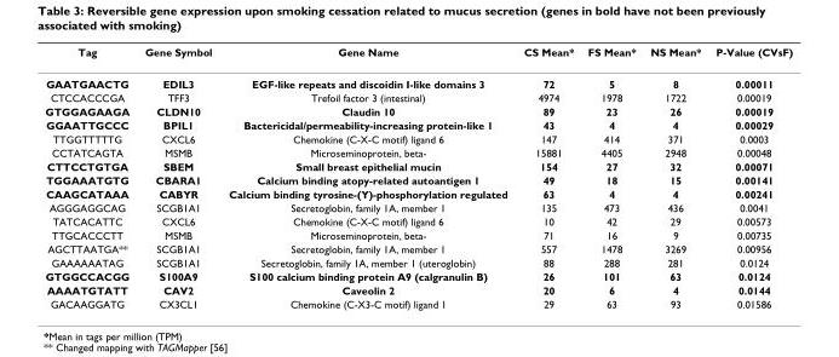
<table><thead><tr><td>Tag</td><td>Gene Symbol</td><td>Gene Name</td><td>CS Mean*</td><td>FS Mean*</td><td>NS Mean*</td><td>P-Value (CVsF)</td></tr></thead><tbody><tr><td>GAATGAACTG</td><td>EDIL3</td><td>EGF-like repeats and discoidin I-like domains 3</td><td>72</td><td>5</td><td>8</td><td>0.00011</td></tr><tr><td>CTCCACCCGA</td><td>TFF3</td><td>Trefoil factor 3 (intestinal)</td><td>4974</td><td>1978</td><td>1722</td><td>0.00019</td></tr><tr><td>GTGGAGAAGA</td><td>CLDN10</td><td>Claudin 10</td><td>89</td><td>23</td><td>26</td><td>0.00019</td></tr><tr><td>GGAATTGCCC</td><td>BPIL1</td><td>Bactericidal/permeability-increasing protein-like 1</td><td>43</td><td>4</td><td>4</td><td>0.00029</td></tr><tr><td>TTGGTTTTTG</td><td>CXCL6</td><td>Chemokine (C-X-C motif) ligand 6</td><td>147</td><td>414</td><td>371</td><td>0.0003</td></tr><tr><td>CCTATCAGTA</td><td>MSMB</td><td>Microseminoprotein, beta-</td><td>15881</td><td>4405</td><td>2948</td><td>0.00048</td></tr><tr><td>CTTCCTGTGA</td><td>SBEM</td><td>Small breast epithelial mucin</td><td>154</td><td>27</td><td>32</td><td>0.00071</td></tr><tr><td>TGGAAATGTG</td><td>CBARA1</td><td>Calcium binding atopy-related autoantigen 1</td><td>49</td><td>18</td><td>15</td><td>0.00141</td></tr><tr><td>CAAGCATAAA</td><td>CABYR</td><td>Calcium binding tyrosine-(Y)-phosphorylation regulated</td><td>63</td><td>4</td><td>4</td><td>0.00241</td></tr><tr><td>AGGGAGGCAG</td><td>SCGB1A1</td><td>Secretoglobin, family 1A, member 1</td><td>135</td><td>473</td><td>436</td><td>0.0041</td></tr><tr><td>TATCACATTC</td><td>CXCL6</td><td>Chemokine (C-X-C motif) ligand 6</td><td>10</td><td>42</td><td>29</td><td>0.00573</td></tr><tr><td>TTGCACCCTT</td><td>MSMB</td><td>Microseminoprotein, beta-</td><td>71</td><td>16</td><td>9</td><td>0.00735</td></tr><tr><td>AGCTTAATGA**</td><td>SCGB1A1</td><td>Secretoglobin, family 1A, member 1</td><td>557</td><td>1478</td><td>3269</td><td>0.00956</td></tr><tr><td>GAAAAAATAG</td><td>SCGB1A1</td><td>Secretoglobin, family 1A, member 1 (uteroglobin)</td><td>88</td><td>288</td><td>281</td><td>0.0124</td></tr><tr><td>GTGGCCACGG</td><td>S100A9</td><td>S100 calcium binding protein A9 (calgranulin B)</td><td>26</td><td>101</td><td>63</td><td>0.0124</td></tr><tr><td>AAAATGTATT</td><td>CAV2</td><td>Caveolin 2</td><td>20</td><td>6</td><td>4</td><td>0.0144</td></tr><tr><td>GACAAGGATG</td><td>CX3CL1</td><td>Chemokine (C-X3-C motif) ligand 1</td><td>29</td><td>63</td><td>93</td><td>0.01586</td></tr></tbody></table>